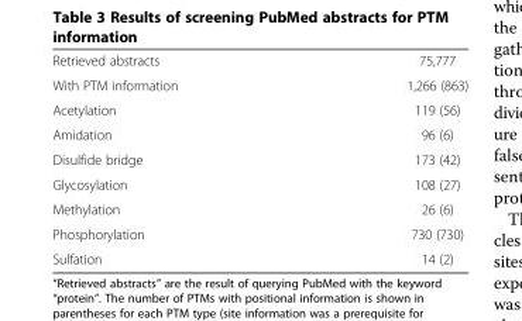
<table><tbody><tr><td>Retrieved abstracts</td><td>75,777</td></tr><tr><td>With PTM information</td><td>1,266 (863)</td></tr><tr><td>Acetylation</td><td>119 (56)</td></tr><tr><td>Amidation</td><td>96 (6)</td></tr><tr><td>Disulfide bridge</td><td>173 (42)</td></tr><tr><td>Glycosylation</td><td>108 (27)</td></tr><tr><td>Methylation</td><td>26 (6)</td></tr><tr><td>Phosphorylation</td><td>730 (730)</td></tr><tr><td>Sulfation</td><td>14 (2)</td></tr></tbody></table>